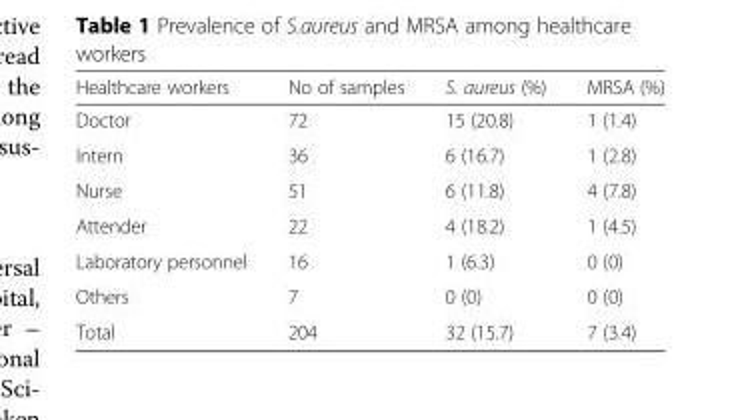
<table><thead><tr><td>Healthcare workers</td><td>No of samples</td><td>S. aureus (%)</td><td>MRSA (%)</td></tr></thead><tbody><tr><td>Doctor</td><td>72</td><td>15 (20.8)</td><td>1 (1.4)</td></tr><tr><td>Intern</td><td>36</td><td>6 (16.7)</td><td>1 (2.8)</td></tr><tr><td>Nurse</td><td>51</td><td>6 (11.8)</td><td>4 (7.8)</td></tr><tr><td>Attender</td><td>22</td><td>4 (18.2)</td><td>1 (4.5)</td></tr><tr><td>Laboratory personnel</td><td>16</td><td>1 (6.3)</td><td>0 (0)</td></tr><tr><td>Others</td><td>7</td><td>0 (0)</td><td>0 (0)</td></tr><tr><td>Total</td><td>204</td><td>32 (15.7)</td><td>7 (3.4)</td></tr></tbody></table>